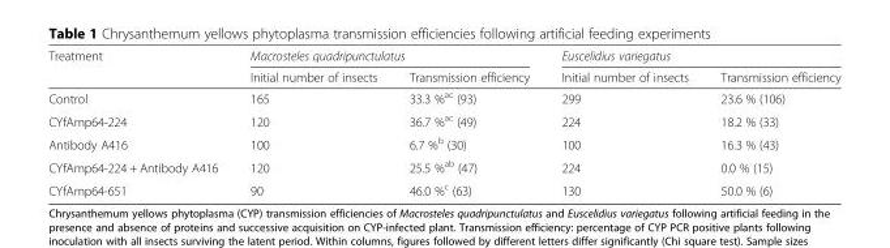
<table><thead><tr><td rowspan="2">Treatment</td><td colspan="2">Macrosteles quadripunctulatus</td><td colspan="2">Euscelidius variegatus</td></tr><tr><td>Initial number of insects</td><td>Transmission efficiency</td><td>Initial number of insects</td><td>Transmission efficiency</td></tr></thead><tbody><tr><td>Control</td><td>165</td><td>33.3 %<sup>ac</sup> (93)</td><td>299</td><td>23.6 % (106)</td></tr><tr><td>CYfAmp64-224</td><td>120</td><td>36.7 %<sup>ac</sup> (49)</td><td>224</td><td>18.2 % (33)</td></tr><tr><td>Antibody A416</td><td>100</td><td>6.7 %<sup>b</sup> (30)</td><td>100</td><td>16.3 % (43)</td></tr><tr><td>CYfAmp64-224 + Antibody A416</td><td>120</td><td>25.5 %<sup>ab</sup> (47)</td><td>224</td><td>0.0 % (15)</td></tr><tr><td>CYfAmp64-651</td><td>90</td><td>46.0 %<sup>c</sup> (63)</td><td>130</td><td>50.0 % (6)</td></tr></tbody></table>